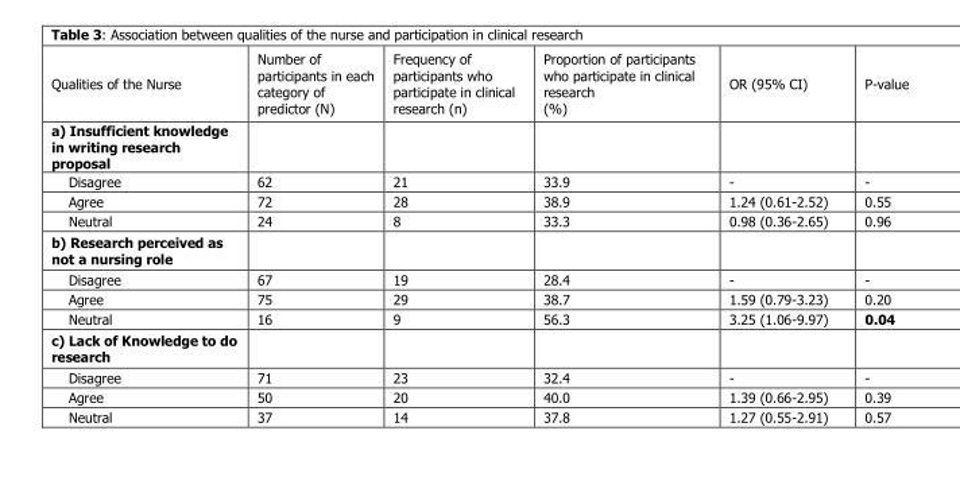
<table><thead><tr><td>Qualities of the Nurse</td><td>Number of participants in each category of predictor (N)</td><td>Frequency of participants who participate in clinical research (n)</td><td>Proportion of participants who participate in clinical research (%)</td><td>OR (95% CI)</td><td>P-value</td></tr></thead><tbody><tr><td colspan="6">a) Insufficient knowledge in writing research proposal</td></tr><tr><td>Disagree</td><td>62</td><td>21</td><td>33.9</td><td>-</td><td>-</td></tr><tr><td>Agree</td><td>72</td><td>28</td><td>38.9</td><td>1.24 (0.61-2.52)</td><td>0.55</td></tr><tr><td>Neutral</td><td>24</td><td>8</td><td>33.3</td><td>0.98 (0.36-2.65)</td><td>0.96</td></tr><tr><td colspan="6">b) Research perceived as not a nursing role</td></tr><tr><td>Disagree</td><td>67</td><td>19</td><td>28.4</td><td>-</td><td>-</td></tr><tr><td>Agree</td><td>75</td><td>29</td><td>38.7</td><td>1.59 (0.79-3.23)</td><td>0.20</td></tr><tr><td>Neutral</td><td>16</td><td>9</td><td>56.3</td><td>3.25 (1.06-9.97)</td><td>0.04</td></tr><tr><td colspan="6">c) Lack of Knowledge to do research</td></tr><tr><td>Disagree</td><td>71</td><td>23</td><td>32.4</td><td>-</td><td>-</td></tr><tr><td>Agree</td><td>50</td><td>20</td><td>40.0</td><td>1.39 (0.66-2.95)</td><td>0.39</td></tr><tr><td>Neutral</td><td>37</td><td>14</td><td>37.8</td><td>1.27 (0.55-2.91)</td><td>0.57</td></tr></tbody></table>